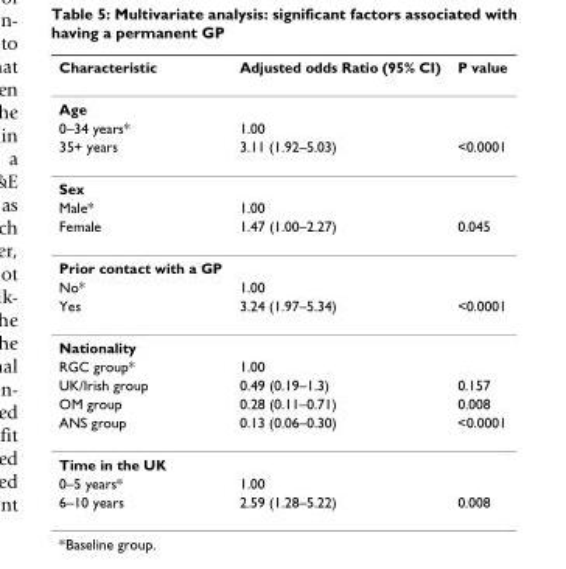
<table><thead><tr><td>Characteristic</td><td>Adjusted odds Ratio (95% CI)</td><td>P value</td></tr></thead><tbody><tr><td colspan="3">Age</td></tr><tr><td>0–34 years*</td><td>1.00</td><td></td></tr><tr><td>35+ years</td><td>3.11 (1.92–5.03)</td><td>&lt;0.0001</td></tr><tr><td colspan="3">Sex</td></tr><tr><td>Male*</td><td>1.00</td><td></td></tr><tr><td>Female</td><td>1.47 (1.00–2.27)</td><td>0.045</td></tr><tr><td colspan="3">Prior contact with a GP</td></tr><tr><td>No*</td><td>1.00</td><td></td></tr><tr><td>Yes</td><td>3.24 (1.97–5.34)</td><td>&lt;0.0001</td></tr><tr><td colspan="3">Nationality</td></tr><tr><td>RGC group*</td><td>1.00</td><td></td></tr><tr><td>UK/Irish group</td><td>0.49 (0.19–1.3)</td><td>0.157</td></tr><tr><td>OM group</td><td>0.28 (0.11–0.71)</td><td>0.008</td></tr><tr><td>ANS group</td><td>0.13 (0.06–0.30)</td><td>&lt;0.0001</td></tr><tr><td colspan="3">Time in the UK</td></tr><tr><td>0–5 years*</td><td>1.00</td><td></td></tr><tr><td>6–10 years</td><td>2.59 (1.28–5.22)</td><td>0.008</td></tr></tbody></table>